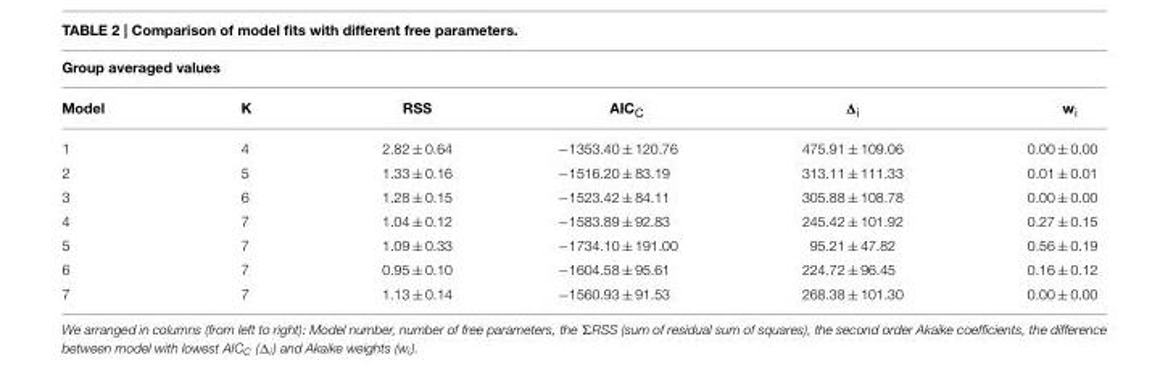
<table><thead><tr><td colspan="6">Group averaged values</td></tr><tr><td>Model</td><td>K</td><td>RSS</td><td>AIC<sub>C</sub></td><td>Δ<sub>i</sub></td><td>w<sub>i</sub></td></tr></thead><tbody><tr><td>1</td><td>4</td><td>2.82 ± 0.64</td><td>−1353.40 ± 120.76</td><td>475.91 ± 109.06</td><td>0.00 ± 0.00</td></tr><tr><td>2</td><td>5</td><td>1.33 ± 0.16</td><td>−1516.20 ± 83.19</td><td>313.11 ± 111.33</td><td>0.01 ± 0.01</td></tr><tr><td>3</td><td>6</td><td>1.28 ± 0.15</td><td>−1523.42 ± 84.11</td><td>305.88 ± 108.78</td><td>0.00 ± 0.00</td></tr><tr><td>4</td><td>7</td><td>1.04 ± 0.12</td><td>−1583.89 ± 92.83</td><td>245.42 ± 101.92</td><td>0.27 ± 0.15</td></tr><tr><td>5</td><td>7</td><td>1.09 ± 0.33</td><td>−1734.10 ± 191.00</td><td>95.21 ± 47.82</td><td>0.56 ± 0.19</td></tr><tr><td>6</td><td>7</td><td>0.95 ± 0.10</td><td>−1604.58 ± 95.61</td><td>224.72 ± 96.45</td><td>0.16 ± 0.12</td></tr><tr><td>7</td><td>7</td><td>1.13 ± 0.14</td><td>−1560.93 ± 91.53</td><td>268.38 ± 101.30</td><td>0.00 ± 0.00</td></tr></tbody></table>